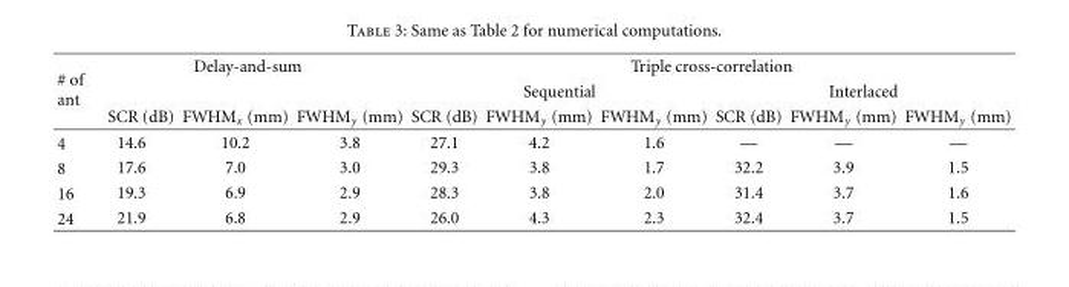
<table><thead><tr><td rowspan="3"># of ant</td><td colspan="3">Delay-and-sum</td><td colspan="6">Triple cross-correlation</td></tr><tr><td rowspan="2">SCR (dB)</td><td rowspan="2">FWHM<sub>x</sub> (mm)</td><td rowspan="2">FWHM<sub>y</sub> (mm)</td><td colspan="3">Sequential</td><td colspan="3">Interlaced</td></tr><tr><td>SCR (dB)</td><td>FWHM<sub>y</sub> (mm)</td><td>FWHM<sub>y</sub> (mm)</td><td>SCR (dB)</td><td>FWHM<sub>y</sub> (mm)</td><td>FWHM<sub>y</sub> (mm)</td></tr></thead><tbody><tr><td>4</td><td>14.6</td><td>10.2</td><td>3.8</td><td>27.1</td><td>4.2</td><td>1.6</td><td>—</td><td>—</td><td>—</td></tr><tr><td>8</td><td>17.6</td><td>7.0</td><td>3.0</td><td>29.3</td><td>3.8</td><td>1.7</td><td>32.2</td><td>3.9</td><td>1.5</td></tr><tr><td>16</td><td>19.3</td><td>6.9</td><td>2.9</td><td>28.3</td><td>3.8</td><td>2.0</td><td>31.4</td><td>3.7</td><td>1.6</td></tr><tr><td>24</td><td>21.9</td><td>6.8</td><td>2.9</td><td>26.0</td><td>4.3</td><td>2.3</td><td>32.4</td><td>3.7</td><td>1.5</td></tr></tbody></table>